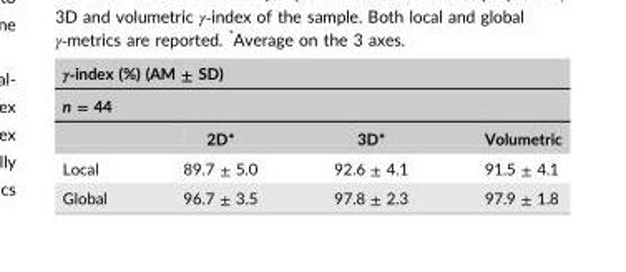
<table><thead><tr><td rowspan="2" colspan="4">γ‐index (%) (AM ± SD) n = 44</td></tr><tr></tr><tr><td></td><td>2D*</td><td>3D*</td><td>Volumetric</td></tr></thead><tbody><tr><td>Local</td><td>89.7 ± 5.0</td><td>92.6 ± 4.1</td><td>91.5 ± 4.1</td></tr><tr><td>Global</td><td>96.7 ± 3.5</td><td>97.8 ± 2.3</td><td>97.9 ± 1.8</td></tr></tbody></table>